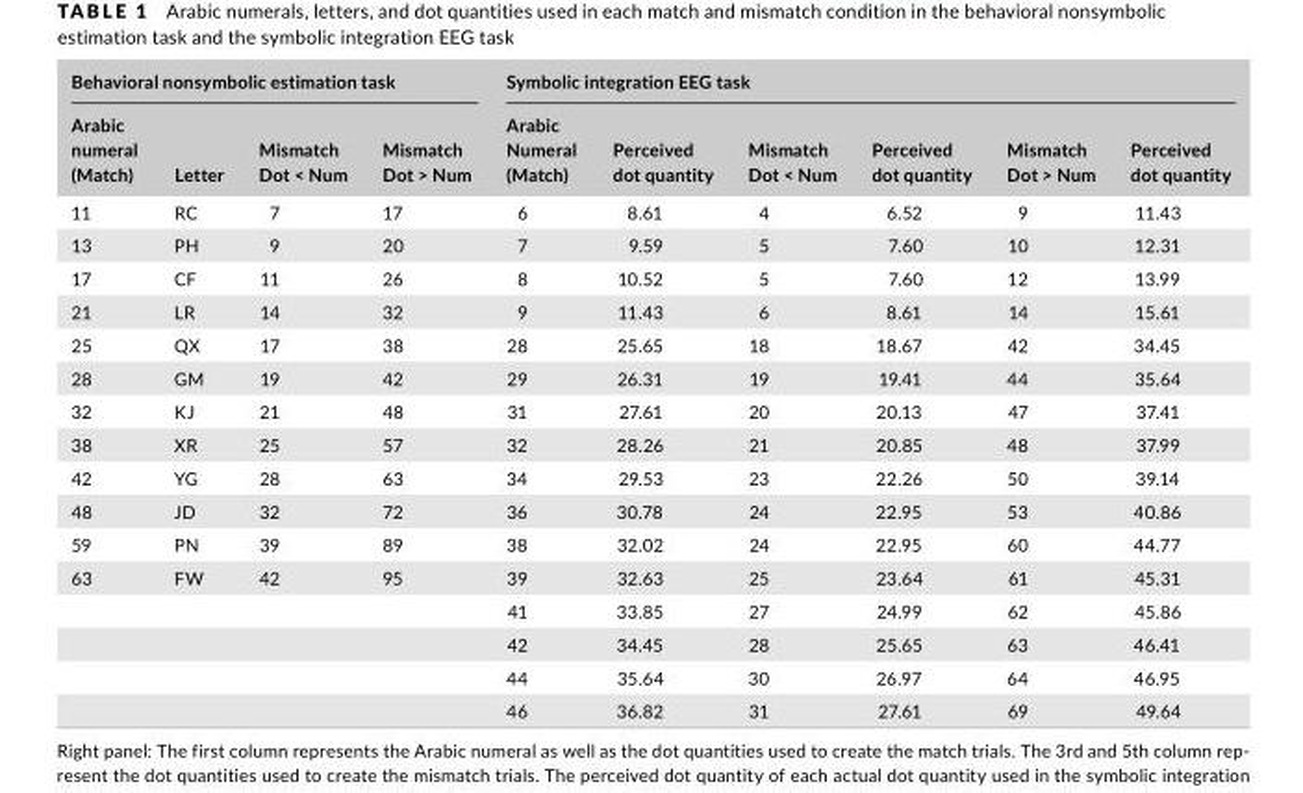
<table><thead><tr><td colspan="4">Behavioral nonsymbolic estimation task</td><td colspan="6">Symbolic integration EEG task</td></tr><tr><td>Arabic numeral (Match)</td><td>Letter</td><td>Mismatch Dot &lt; Num</td><td>Mismatch Dot &gt; Num</td><td>Arabic Numeral (Match)</td><td>Perceived dot quantity</td><td>Mismatch Dot &lt; Num</td><td>Perceived dot quantity</td><td>Mismatch Dot &gt; Num</td><td>Perceived dot quantity</td></tr></thead><tbody><tr><td>11</td><td>RC</td><td>7</td><td>17</td><td>6</td><td>8.61</td><td>4</td><td>6.52</td><td>9</td><td>11.43</td></tr><tr><td>13</td><td>PH</td><td>9</td><td>20</td><td>7</td><td>9.59</td><td>5</td><td>7.60</td><td>10</td><td>12.31</td></tr><tr><td>17</td><td>CF</td><td>11</td><td>26</td><td>8</td><td>10.52</td><td>5</td><td>7.60</td><td>12</td><td>13.99</td></tr><tr><td>21</td><td>LR</td><td>14</td><td>32</td><td>9</td><td>11.43</td><td>6</td><td>8.61</td><td>14</td><td>15.61</td></tr><tr><td>25</td><td>QX</td><td>17</td><td>38</td><td>28</td><td>25.65</td><td>18</td><td>18.67</td><td>42</td><td>34.45</td></tr><tr><td>28</td><td>GM</td><td>19</td><td>42</td><td>29</td><td>26.31</td><td>19</td><td>19.41</td><td>44</td><td>35.64</td></tr><tr><td>32</td><td>KJ</td><td>21</td><td>48</td><td>31</td><td>27.61</td><td>20</td><td>20.13</td><td>47</td><td>37.41</td></tr><tr><td>38</td><td>XR</td><td>25</td><td>57</td><td>32</td><td>28.26</td><td>21</td><td>20.85</td><td>48</td><td>37.99</td></tr><tr><td>42</td><td>YG</td><td>28</td><td>63</td><td>34</td><td>29.53</td><td>23</td><td>22.26</td><td>50</td><td>39.14</td></tr><tr><td>48</td><td>JD</td><td>32</td><td>72</td><td>36</td><td>30.78</td><td>24</td><td>22.95</td><td>53</td><td>40.86</td></tr><tr><td>59</td><td>PN</td><td>39</td><td>89</td><td>38</td><td>32.02</td><td>24</td><td>22.95</td><td>60</td><td>44.77</td></tr><tr><td rowspan="5">63</td><td>FW</td><td>42</td><td>95</td><td>39</td><td>32.63</td><td>25</td><td>23.64</td><td>61</td><td>45.31</td></tr><tr><td></td><td></td><td></td><td>41</td><td>33.85</td><td>27</td><td>24.99</td><td>62</td><td>45.86</td></tr><tr><td></td><td></td><td></td><td>42</td><td>34.45</td><td>28</td><td>25.65</td><td>63</td><td>46.41</td></tr><tr><td></td><td></td><td></td><td>44</td><td>35.64</td><td>30</td><td>26.97</td><td>64</td><td>46.95</td></tr><tr><td></td><td></td><td></td><td>46</td><td>36.82</td><td>31</td><td>27.61</td><td>69</td><td>49.64</td></tr></tbody></table>